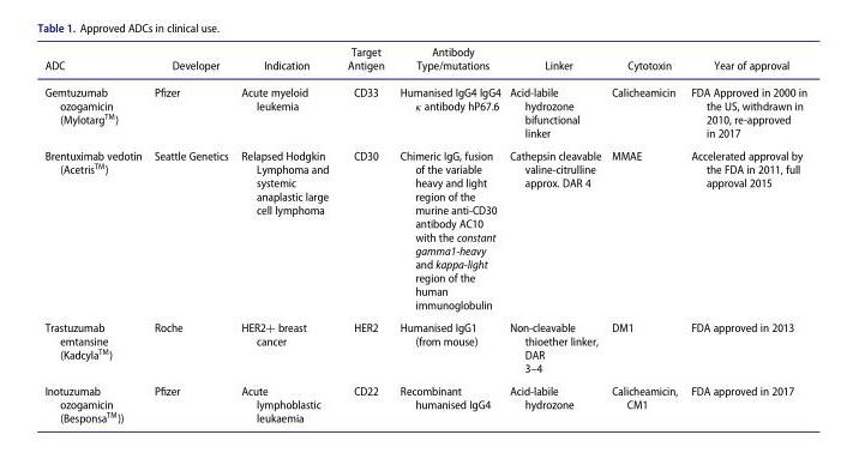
<table><thead><tr><td>ADC</td><td>Developer</td><td>Indication</td><td>Target Antigen</td><td>Antibody Type/mutations</td><td>Linker</td><td>Cytotoxin</td><td>Year of approval</td></tr></thead><tbody><tr><td>Gemtuzumab ozogamicin (MylotargTM)</td><td>Pfizer</td><td>Acute myeloid leukemia</td><td>CD33</td><td>Humanised IgG4 IgG4 κ antibody hP67.6</td><td>Acid-labile hydrozone bifunctional linker</td><td>Calicheamicin</td><td>FDA Approved in 2000 in the US, withdrawn in 2010, re-approved in 2017</td></tr><tr><td>Brentuximab vedotin (AcetrisTM)</td><td>Seattle Genetics</td><td>Relapsed Hodgkin Lymphoma and systemic anaplastic large cell lymphoma</td><td>CD30</td><td>Chimeric IgG, fusion of the variable heavy and light region of the murine anti-CD30 antibody AC10 with the constant gamma1-heavy and kappa-light region of the human immunoglobulin</td><td>Cathepsin cleavable valine-citrulline approx. DAR 4</td><td>MMAE</td><td>Accelerated approval by the FDA in 2011, full approval 2015</td></tr><tr><td>Trastuzumab emtansine (KadcylaTM)</td><td>Roche</td><td>HER2+ breast cancer</td><td>HER2</td><td>Humanised IgG1 (from mouse)</td><td>Non-cleavable thioether linker, DAR 3–4</td><td>DM1</td><td>FDA approved in 2013</td></tr><tr><td>Inotuzumab ozogamicin (BesponsaTM))</td><td>Pfizer</td><td>Acute lymphoblastic leukaemia</td><td>CD22</td><td>Recombinant humanised IgG4</td><td>Acid-labile hydrozone</td><td>Calicheamicin, CM1</td><td>FDA approved in 2017</td></tr></tbody></table>